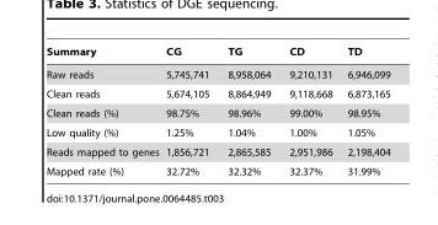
<table><thead><tr><td>Summary</td><td>CG</td><td>TG</td><td>CD</td><td>TD</td></tr></thead><tbody><tr><td>Raw reads</td><td>5,745,741</td><td>8,958,064</td><td>9,210,131</td><td>6,946,099</td></tr><tr><td>Clean reads</td><td>5,674,105</td><td>8,864,949</td><td>9,118,668</td><td>6,873,165</td></tr><tr><td>Clean reads (%)</td><td>98.75%</td><td>98.96%</td><td>99.00%</td><td>98.95%</td></tr><tr><td>Low quality (%)</td><td>1.25%</td><td>1.04%</td><td>1.00%</td><td>1.05%</td></tr><tr><td>Reads mapped to genes</td><td>1,856,721</td><td>2,865,585</td><td>2,951,986</td><td>2,198,404</td></tr><tr><td>Mapped rate (%)</td><td>32.72%</td><td>32.32%</td><td>32.37%</td><td>31.99%</td></tr></tbody></table>